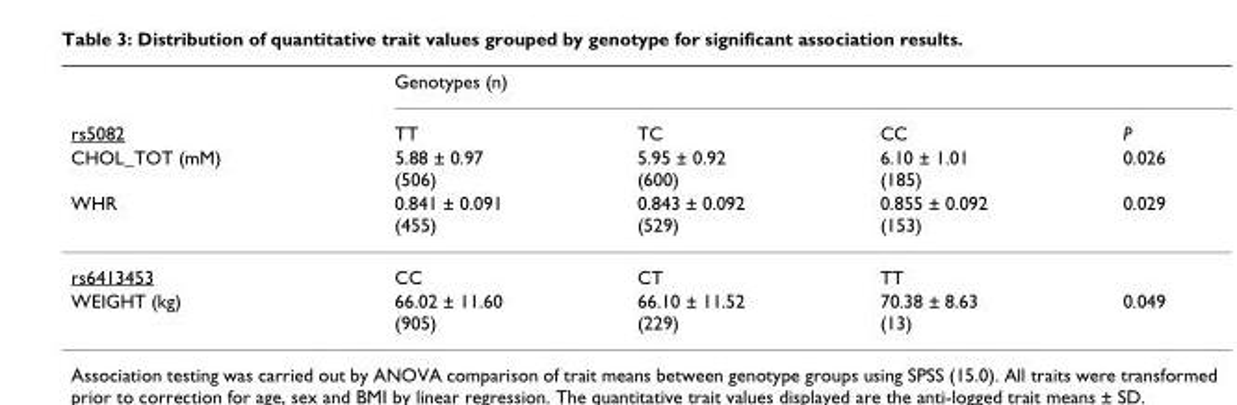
<table><thead><tr><td rowspan="4">rs5082 CHOL_TOT (mM) WHR</td><td colspan="4">Genotypes (n)</td></tr><tr><td rowspan="3">TT 5.88 ± 0.97 (506) 0.841 ± 0.091 (455)</td><td rowspan="3">TC 5.95 ± 0.92 (600) 0.843 ± 0.092 (529)</td><td rowspan="3">CC 6.10 ± 1.01 (185) 0.855 ± 0.092 (153)</td><td rowspan="3">P 0.026 0.029</td></tr><tr></tr><tr></tr></thead><tbody><tr><td>rs6413453</td><td>CC</td><td>CT</td><td>TT</td><td></td></tr><tr><td>WEIGHT (kg)</td><td>66.02 ± 11.60 (905)</td><td>66.10 ± 11.52 (229)</td><td>70.38 ± 8.63 (13)</td><td>0.049</td></tr></tbody></table>